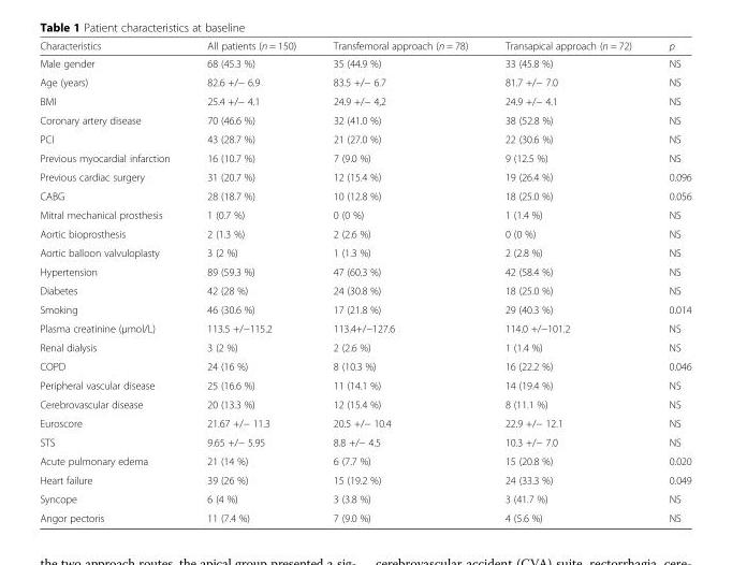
<table><thead><tr><td>Characteristics</td><td>All patients (n = 150)</td><td>Transfemoral approach (n = 78)</td><td>Transapical approach (n = 72)</td><td>p</td></tr></thead><tbody><tr><td>Male gender</td><td>68 (45.3 %)</td><td>35 (44.9 %)</td><td>33 (45.8 %)</td><td>NS</td></tr><tr><td>Age (years)</td><td>82.6 +/− 6.9</td><td>83.5 +/− 6.7</td><td>81.7 +/− 7.0</td><td>NS</td></tr><tr><td>BMI</td><td>25.4 +/− 4.1</td><td>24.9 +/− 4,2</td><td>24.9 +/− 4.1</td><td>NS</td></tr><tr><td>Coronary artery disease</td><td>70 (46.6 %)</td><td>32 (41.0 %)</td><td>38 (52.8 %)</td><td>NS</td></tr><tr><td>PCI</td><td>43 (28.7 %)</td><td>21 (27.0 %)</td><td>22 (30.6 %)</td><td>NS</td></tr><tr><td>Previous myocardial infarction</td><td>16 (10.7 %)</td><td>7 (9.0 %)</td><td>9 (12.5 %)</td><td>NS</td></tr><tr><td>Previous cardiac surgery</td><td>31 (20.7 %)</td><td>12 (15.4 %)</td><td>19 (26.4 %)</td><td>0.096</td></tr><tr><td>CABG</td><td>28 (18.7 %)</td><td>10 (12.8 %)</td><td>18 (25.0 %)</td><td>0.056</td></tr><tr><td>Mitral mechanical prosthesis</td><td>1 (0.7 %)</td><td>0 (0 %)</td><td>1 (1.4 %)</td><td>NS</td></tr><tr><td>Aortic bioprosthesis</td><td>2 (1.3 %)</td><td>2 (2.6 %)</td><td>0 (0 %)</td><td>NS</td></tr><tr><td>Aortic balloon valvuloplasty</td><td>3 (2 %)</td><td>1 (1.3 %)</td><td>2 (2.8 %)</td><td>NS</td></tr><tr><td>Hypertension</td><td>89 (59.3 %)</td><td>47 (60.3 %)</td><td>42 (58.4 %)</td><td>NS</td></tr><tr><td>Diabetes</td><td>42 (28 %)</td><td>24 (30.8 %)</td><td>18 (25.0 %)</td><td>NS</td></tr><tr><td>Smoking</td><td>46 (30.6 %)</td><td>17 (21.8 %)</td><td>29 (40.3 %)</td><td>0.014</td></tr><tr><td>Plasma creatinine (μmol/L)</td><td>113.5 +/−115.2</td><td>113.4+/−127.6</td><td>114.0 +/−101.2</td><td>NS</td></tr><tr><td>Renal dialysis</td><td>3 (2 %)</td><td>2 (2.6 %)</td><td>1 (1.4 %)</td><td>NS</td></tr><tr><td>COPD</td><td>24 (16 %)</td><td>8 (10.3 %)</td><td>16 (22.2 %)</td><td>0.046</td></tr><tr><td>Peripheral vascular disease</td><td>25 (16.6 %)</td><td>11 (14.1 %)</td><td>14 (19.4 %)</td><td>NS</td></tr><tr><td>Cerebrovascular disease</td><td>20 (13.3 %)</td><td>12 (15.4 %)</td><td>8 (11.1 %)</td><td>NS</td></tr><tr><td>Euroscore</td><td>21.67 +/− 11.3</td><td>20.5 +/− 10.4</td><td>22.9 +/− 12.1</td><td>NS</td></tr><tr><td>STS</td><td>9.65 +/− 5.95</td><td>8.8 +/− 4.5</td><td>10.3 +/− 7.0</td><td>NS</td></tr><tr><td>Acute pulmonary edema</td><td>21 (14 %)</td><td>6 (7.7 %)</td><td>15 (20.8 %)</td><td>0.020</td></tr><tr><td>Heart failure</td><td>39 (26 %)</td><td>15 (19.2 %)</td><td>24 (33.3 %)</td><td>0.049</td></tr><tr><td>Syncope</td><td>6 (4 %)</td><td>3 (3.8 %)</td><td>3 (41.7 %)</td><td>NS</td></tr><tr><td>Angor pectoris</td><td>11 (7.4 %)</td><td>7 (9.0 %)</td><td>4 (5.6 %)</td><td>NS</td></tr></tbody></table>